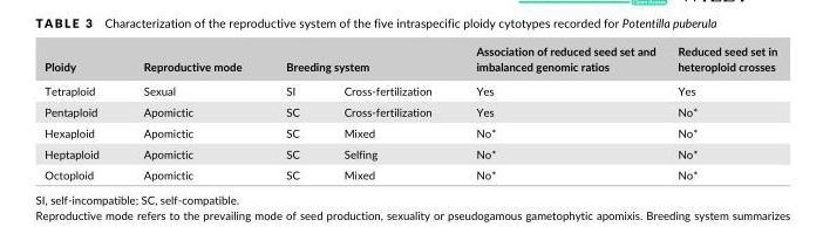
<table><thead><tr><td rowspan="2">Ploidy Tetraploid</td><td rowspan="2">Reproductive mode Sexual</td><td colspan="2">Breeding system</td><td rowspan="2">Association of reduced seed set and imbalanced genomic ratios Yes</td><td rowspan="2">Reduced seed set in heteroploid crosses Yes</td></tr><tr><td>SI</td><td>Cross- fertilization</td></tr></thead><tbody><tr><td>Pentaploid</td><td>Apomictic</td><td>SC</td><td>Cross- fertilization</td><td>Yes</td><td>No*</td></tr><tr><td>Hexaploid</td><td>Apomictic</td><td>SC</td><td>Mixed</td><td>No*</td><td>No*</td></tr><tr><td>Heptaploid</td><td>Apomictic</td><td>SC</td><td>Selfing</td><td>No*</td><td>No*</td></tr><tr><td>Octoploid</td><td>Apomictic</td><td>SC</td><td>Mixed</td><td>No*</td><td>No*</td></tr></tbody></table>